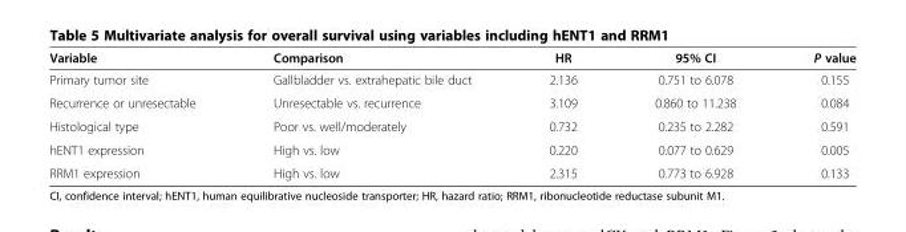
<table><thead><tr><td>Variable</td><td>Comparison</td><td>HR</td><td>95% CI</td><td>P value</td></tr></thead><tbody><tr><td>Primary tumor site</td><td>Gallbladder vs. extrahepatic bile duct</td><td>2.136</td><td>0.751 to 6.078</td><td>0.155</td></tr><tr><td>Recurrence or unresectable</td><td>Unresectable vs. recurrence</td><td>3.109</td><td>0.860 to 11.238</td><td>0.084</td></tr><tr><td>Histological type</td><td>Poor vs. well/moderately</td><td>0.732</td><td>0.235 to 2.282</td><td>0.591</td></tr><tr><td>hENT1 expression</td><td>High vs. low</td><td>0.220</td><td>0.077 to 0.629</td><td>0.005</td></tr><tr><td>RRM1 expression</td><td>High vs. low</td><td>2.315</td><td>0.773 to 6.928</td><td>0.133</td></tr></tbody></table>